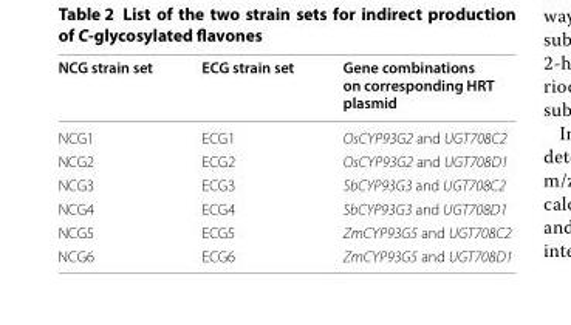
<table><thead><tr><td>NCG strain set</td><td>ECG strain set</td><td>Gene combinations on corresponding HRT plasmid</td></tr></thead><tbody><tr><td>NCG1</td><td>ECG1</td><td>OsCYP93G2 and UGT708C2</td></tr><tr><td>NCG2</td><td>ECG2</td><td>OsCYP93G2 and UGT708D1</td></tr><tr><td>NCG3</td><td>ECG3</td><td>SbCYP93G3 and UGT708C2</td></tr><tr><td>NCG4</td><td>ECG4</td><td>SbCYP93G3 and UGT708D1</td></tr><tr><td>NCG5</td><td>ECG5</td><td>ZmCYP93G5 and UGT708C2</td></tr><tr><td>NCG6</td><td>ECG6</td><td>ZmCYP93G5 and UGT708D1</td></tr></tbody></table>